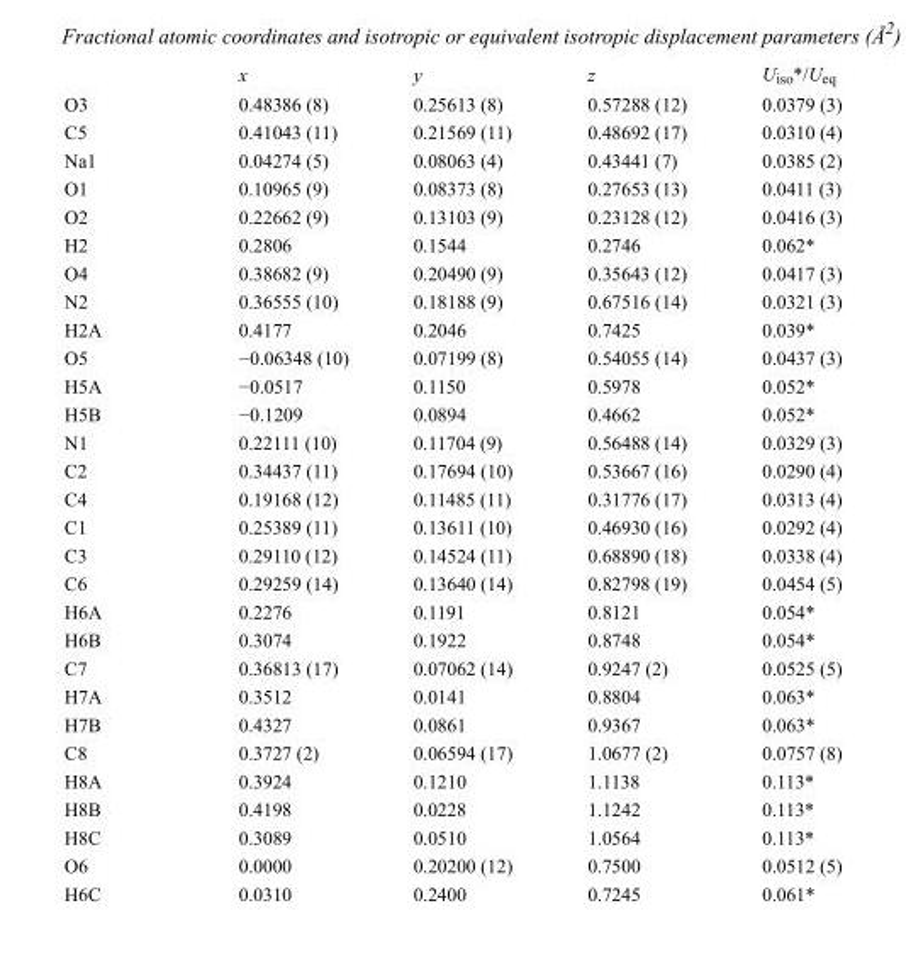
<table><thead><tr><td></td><td>x</td><td>y</td><td>z</td><td>U<sub>iso</sub>*/U<sub>eq</sub></td></tr></thead><tbody><tr><td>O3</td><td>0.48386 (8)</td><td>0.25613 (8)</td><td>0.57288 (12)</td><td>0.0379 (3)</td></tr><tr><td>C5</td><td>0.41043 (11)</td><td>0.21569 (11)</td><td>0.48692 (17)</td><td>0.0310 (4)</td></tr><tr><td>Na1</td><td>0.04274 (5)</td><td>0.08063 (4)</td><td>0.43441 (7)</td><td>0.0385 (2)</td></tr><tr><td>O1</td><td>0.10965 (9)</td><td>0.08373 (8)</td><td>0.27653 (13)</td><td>0.0411 (3)</td></tr><tr><td>O2</td><td>0.22662 (9)</td><td>0.13103 (9)</td><td>0.23128 (12)</td><td>0.0416 (3)</td></tr><tr><td>H2</td><td>0.2806</td><td>0.1544</td><td>0.2746</td><td>0.062*</td></tr><tr><td>O4</td><td>0.38682 (9)</td><td>0.20490 (9)</td><td>0.35643 (12)</td><td>0.0417 (3)</td></tr><tr><td>N2</td><td>0.36555 (10)</td><td>0.18188 (9)</td><td>0.67516 (14)</td><td>0.0321 (3)</td></tr><tr><td>H2A</td><td>0.4177</td><td>0.2046</td><td>0.7425</td><td>0.039*</td></tr><tr><td>O5</td><td>−0.06348 (10)</td><td>0.07199 (8)</td><td>0.54055 (14)</td><td>0.0437 (3)</td></tr><tr><td>H5A</td><td>−0.0517</td><td>0.1150</td><td>0.5978</td><td>0.052*</td></tr><tr><td>H5B</td><td>−0.1209</td><td>0.0894</td><td>0.4662</td><td>0.052*</td></tr><tr><td>N1</td><td>0.22111 (10)</td><td>0.11704 (9)</td><td>0.56488 (14)</td><td>0.0329 (3)</td></tr><tr><td>C2</td><td>0.34437 (11)</td><td>0.17694 (10)</td><td>0.53667 (16)</td><td>0.0290 (4)</td></tr><tr><td>C4</td><td>0.19168 (12)</td><td>0.11485 (11)</td><td>0.31776 (17)</td><td>0.0313 (4)</td></tr><tr><td>C1</td><td>0.25389 (11)</td><td>0.13611 (10)</td><td>0.46930 (16)</td><td>0.0292 (4)</td></tr><tr><td>C3</td><td>0.29110 (12)</td><td>0.14524 (11)</td><td>0.68890 (18)</td><td>0.0338 (4)</td></tr><tr><td>C6</td><td>0.29259 (14)</td><td>0.13640 (14)</td><td>0.82798 (19)</td><td>0.0454 (5)</td></tr><tr><td>H6A</td><td>0.2276</td><td>0.1191</td><td>0.8121</td><td>0.054*</td></tr><tr><td>H6B</td><td>0.3074</td><td>0.1922</td><td>0.8748</td><td>0.054*</td></tr><tr><td>C7</td><td>0.36813 (17)</td><td>0.07062 (14)</td><td>0.9247 (2)</td><td>0.0525 (5)</td></tr><tr><td>H7A</td><td>0.3512</td><td>0.0141</td><td>0.8804</td><td>0.063*</td></tr><tr><td>H7B</td><td>0.4327</td><td>0.0861</td><td>0.9367</td><td>0.063*</td></tr><tr><td>C8</td><td>0.3727 (2)</td><td>0.06594 (17)</td><td>1.0677 (2)</td><td>0.0757 (8)</td></tr><tr><td>H8A</td><td>0.3924</td><td>0.1210</td><td>1.1138</td><td>0.113*</td></tr><tr><td>H8B</td><td>0.4198</td><td>0.0228</td><td>1.1242</td><td>0.113*</td></tr><tr><td>H8C</td><td>0.3089</td><td>0.0510</td><td>1.0564</td><td>0.113*</td></tr><tr><td>O6</td><td>0.0000</td><td>0.20200 (12)</td><td>0.7500</td><td>0.0512 (5)</td></tr><tr><td>H6C</td><td>0.0310</td><td>0.2400</td><td>0.7245</td><td>0.061*</td></tr></tbody></table>